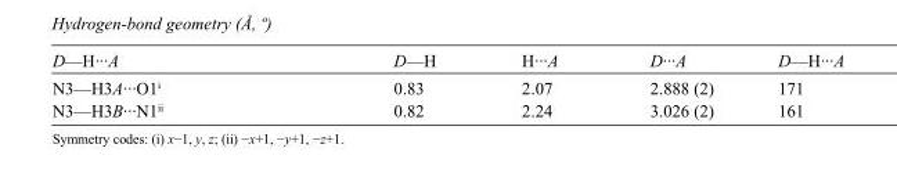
<table><tbody><tr><td>D—H···A</td><td>D—H</td><td>H···A</td><td>D···A</td><td>D—H···A</td></tr><tr><td>N3—H3A···O1<sup>i</sup></td><td>0.83</td><td>2.07</td><td>2.888 (2)</td><td>171</td></tr><tr><td>N3—H3B···N1<sup>ii</sup></td><td>0.82</td><td>2.24</td><td>3.026 (2)</td><td>161</td></tr></tbody></table>